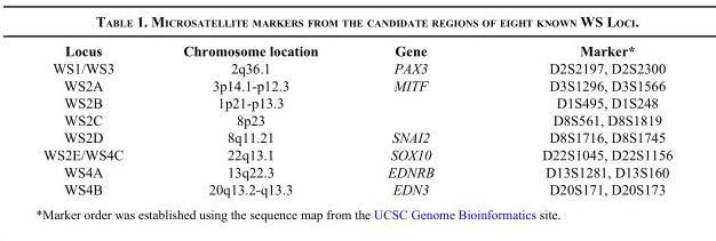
<table><thead><tr><td>Locus</td><td>Chromosome location</td><td>Gene</td><td>Marker*</td></tr></thead><tbody><tr><td>WS1/WS3</td><td>2q36.1</td><td>PAX3</td><td>D2S2197, D2S2300</td></tr><tr><td>WS2A</td><td>3p14.1-p12.3</td><td>MITF</td><td>D3S1296, D3S1566</td></tr><tr><td>WS2B</td><td>1p21-p13.3</td><td></td><td>D1S495, D1S248</td></tr><tr><td>WS2C</td><td>8p23</td><td></td><td>D8S561, D8S1819</td></tr><tr><td>WS2D</td><td>8q11.21</td><td>SNAI2</td><td>D8S1716, D8S1745</td></tr><tr><td>WS2E/WS4C</td><td>22q13.1</td><td>SOX10</td><td>D22S1045, D22S1156</td></tr><tr><td>WS4A</td><td>13q22.3</td><td>EDNRB</td><td>D13S1281, D13S160</td></tr><tr><td>WS4B</td><td>20q13.2-q13.3</td><td>EDN3</td><td>D20S171, D20S173</td></tr></tbody></table>